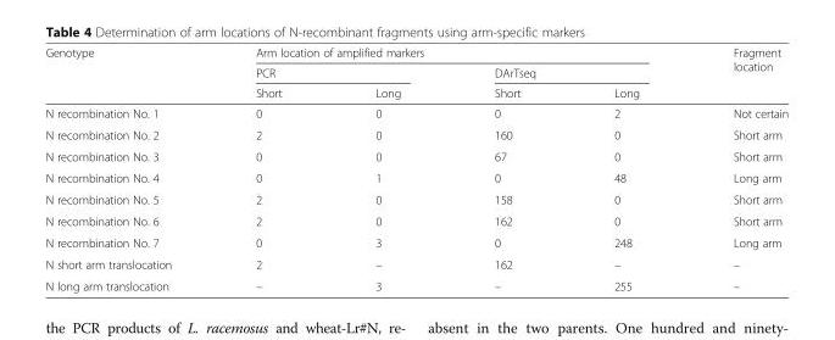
<table><thead><tr><td rowspan="3">Genotype</td><td colspan="4">Arm location of amplified markers</td><td rowspan="3">Fragment location</td></tr><tr><td colspan="2">PCR</td><td colspan="2">DArTseq</td></tr><tr><td>Short</td><td>Long</td><td>Short</td><td>Long</td></tr></thead><tbody><tr><td>N recombination No. 1</td><td>0</td><td>0</td><td>0</td><td>2</td><td>Not certain</td></tr><tr><td>N recombination No. 2</td><td>2</td><td>0</td><td>160</td><td>0</td><td>Short arm</td></tr><tr><td>N recombination No. 3</td><td>0</td><td>0</td><td>67</td><td>0</td><td>Short arm</td></tr><tr><td>N recombination No. 4</td><td>0</td><td>1</td><td>0</td><td>48</td><td>Long arm</td></tr><tr><td>N recombination No. 5</td><td>2</td><td>0</td><td>158</td><td>0</td><td>Short arm</td></tr><tr><td>N recombination No. 6</td><td>2</td><td>0</td><td>162</td><td>0</td><td>Short arm</td></tr><tr><td>N recombination No. 7</td><td>0</td><td>3</td><td>0</td><td>248</td><td>Long arm</td></tr><tr><td>N short arm translocation</td><td>2</td><td>–</td><td>162</td><td>–</td><td>–</td></tr><tr><td>N long arm translocation</td><td>–</td><td>3</td><td>–</td><td>255</td><td>–</td></tr></tbody></table>